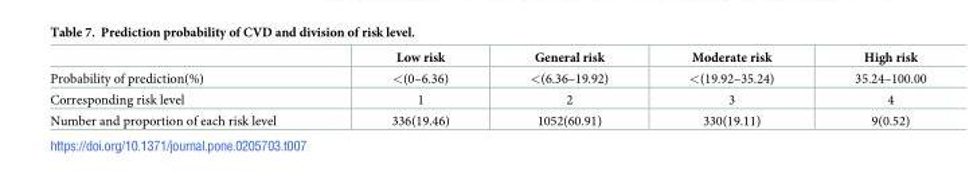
<table><thead><tr><td></td><td>Low risk</td><td>General risk</td><td>Moderate risk</td><td>High risk</td></tr></thead><tbody><tr><td>Probability of prediction(%)</td><td>&lt;(0–6.36)</td><td>&lt;(6.36–19.92)</td><td>&lt;(19.92–35.24)</td><td>35.24–100.00</td></tr><tr><td>Corresponding risk level</td><td>1</td><td>2</td><td>3</td><td>4</td></tr><tr><td>Number and proportion of each risk level</td><td>336(19.46)</td><td>1052(60.91)</td><td>330(19.11)</td><td>9(0.52)</td></tr></tbody></table>